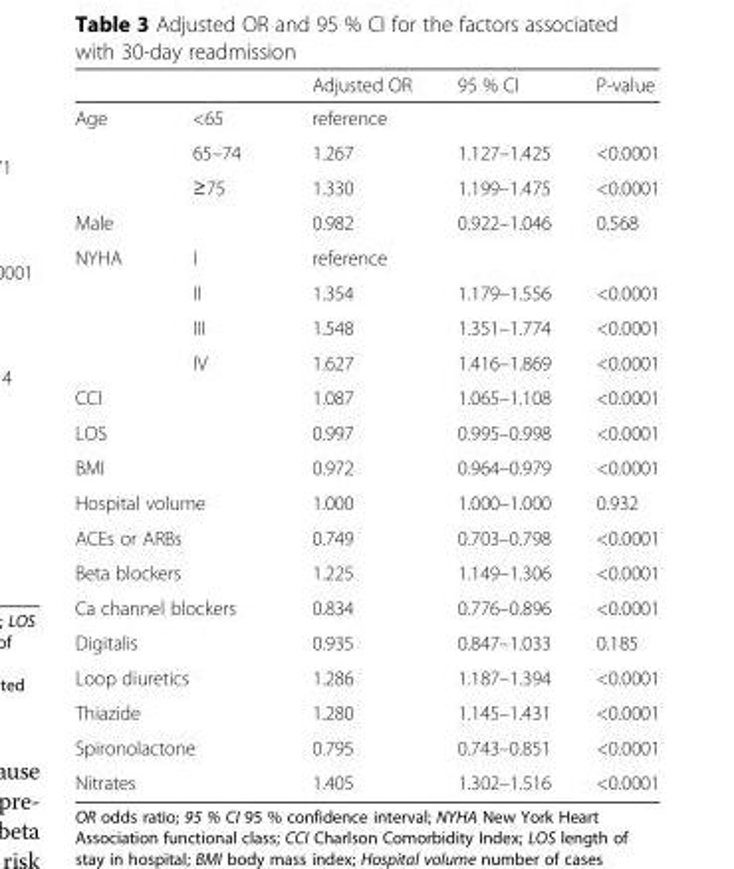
<table><thead><tr><td></td><td></td><td>Adjusted OR</td><td>95 % CI</td><td>P-value</td></tr></thead><tbody><tr><td rowspan="3">Age</td><td>&lt;65</td><td>reference</td><td></td><td></td></tr><tr><td>65–74</td><td>1.267</td><td>1.127–1.425</td><td>&lt;0.0001</td></tr><tr><td>≥75</td><td>1.330</td><td>1.199–1.475</td><td>&lt;0.0001</td></tr><tr><td colspan="2">Male</td><td>0.982</td><td>0.922–1.046</td><td>0.568</td></tr><tr><td rowspan="4">NYHA</td><td>I</td><td>reference</td><td></td><td></td></tr><tr><td>II</td><td>1.354</td><td>1.179–1.556</td><td>&lt;0.0001</td></tr><tr><td>III</td><td>1.548</td><td>1.351–1.774</td><td>&lt;0.0001</td></tr><tr><td>IV</td><td>1.627</td><td>1.416–1.869</td><td>&lt;0.0001</td></tr><tr><td colspan="2">CCI</td><td>1.087</td><td>1.065–1.108</td><td>&lt;0.0001</td></tr><tr><td colspan="2">LOS</td><td>0.997</td><td>0.995–0.998</td><td>&lt;0.0001</td></tr><tr><td colspan="2">BMI</td><td>0.972</td><td>0.964–0.979</td><td>&lt;0.0001</td></tr><tr><td colspan="2">Hospital volume</td><td>1.000</td><td>1.000–1.000</td><td>0.932</td></tr><tr><td colspan="2">ACEs or ARBs</td><td>0.749</td><td>0.703–0.798</td><td>&lt;0.0001</td></tr><tr><td colspan="2">Beta blockers</td><td>1.225</td><td>1.149–1.306</td><td>&lt;0.0001</td></tr><tr><td colspan="2">Ca channel blockers</td><td>0.834</td><td>0.776–0.896</td><td>&lt;0.0001</td></tr><tr><td colspan="2">Digitalis</td><td>0.935</td><td>0.847–1.033</td><td>0.185</td></tr><tr><td colspan="2">Loop diuretics</td><td>1.286</td><td>1.187–1.394</td><td>&lt;0.0001</td></tr><tr><td colspan="2">Thiazide</td><td>1.280</td><td>1.145–1.431</td><td>&lt;0.0001</td></tr><tr><td colspan="2">Spironolactone</td><td>0.795</td><td>0.743–0.851</td><td>&lt;0.0001</td></tr><tr><td colspan="2">Nitrates</td><td>1.405</td><td>1.302–1.516</td><td>&lt;0.0001</td></tr></tbody></table>